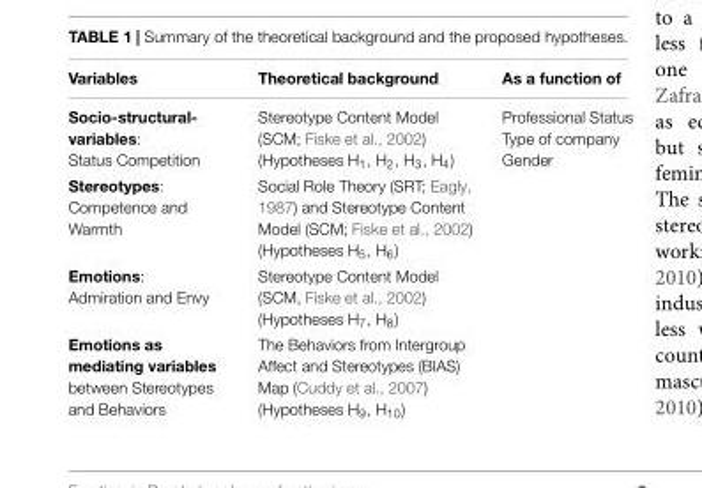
<table><thead><tr><td>Variables</td><td>Theoretical background</td><td>As a function of</td></tr></thead><tbody><tr><td>Socio-structural- variables: Status Competition</td><td>Stereotype Content Model (SCM; Fiske et al., 2002) (Hypotheses H<sub>1</sub>, H<sub>2</sub>, H<sub>3</sub>, H<sub>4</sub>)</td><td>Professional Status Type of company Gender</td></tr><tr><td>Stereotypes: Competence and Warmth</td><td>Social Role Theory (SRT; Eagly, 1987) and Stereotype Content Model (SCM; Fiske et al., 2002) (Hypotheses H<sub>5</sub>, H<sub>6</sub>)</td><td></td></tr><tr><td>Emotions: Admiration and Envy</td><td>Stereotype Content Model (SCM, Fiske et al., 2002) (Hypotheses H<sub>7</sub>, H<sub>8</sub>)</td><td></td></tr><tr><td>Emotions as mediating variables between Stereotypes and Behaviors</td><td>The Behaviors from Intergroup Affect and Stereotypes (BIAS) Map (Cuddy et al., 2007) (Hypotheses H<sub>9</sub>, H<sub>10</sub>)</td><td></td></tr></tbody></table>